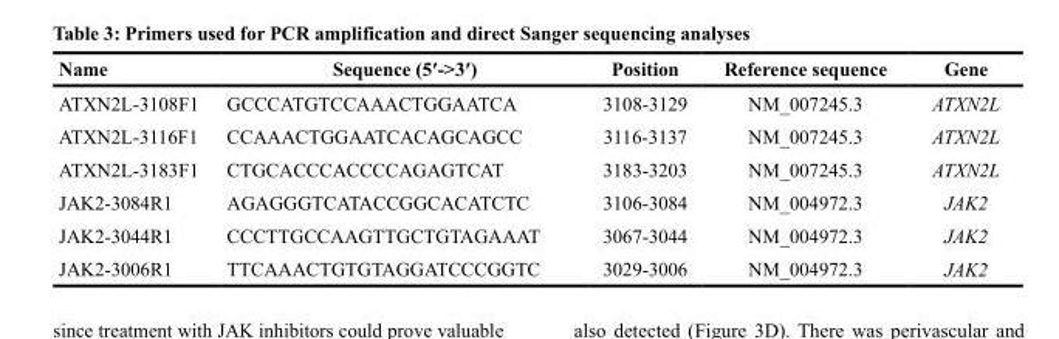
<table><thead><tr><td>Name</td><td>Sequence (5′-&gt;3′)</td><td>Position</td><td>Reference sequence</td><td>Gene</td></tr></thead><tbody><tr><td>ATXN2L-3108F1</td><td>GCCCATGTCCAAACTGGAATCA</td><td>3108-3129</td><td>NM_007245.3</td><td>ATXN2L</td></tr><tr><td>ATXN2L-3116F1</td><td>CCAAACTGGAATCACAGCAGCC</td><td>3116-3137</td><td>NM_007245.3</td><td>ATXN2L</td></tr><tr><td>ATXN2L-3183F1</td><td>CTGCACCCACCCCAGAGTCAT</td><td>3183-3203</td><td>NM_007245.3</td><td>ATXN2L</td></tr><tr><td>JAK2-3084R1</td><td>AGAGGGTCATACCGGCACATCTC</td><td>3106-3084</td><td>NM_004972.3</td><td>JAK2</td></tr><tr><td>JAK2-3044R1</td><td>CCCTTGCCAAGTTGCTGTAGAAAT</td><td>3067-3044</td><td>NM_004972.3</td><td>JAK2</td></tr><tr><td>JAK2-3006R1</td><td>TTCAAACTGTGTAGGATCCCGGTC</td><td>3029-3006</td><td>NM_004972.3</td><td>JAK2</td></tr></tbody></table>